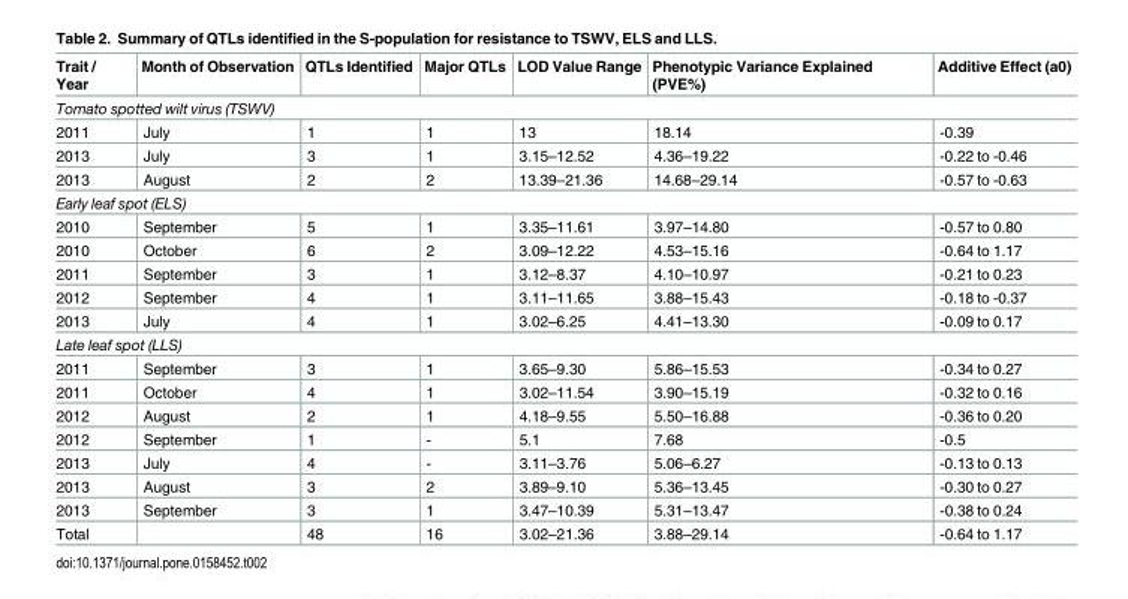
<table><thead><tr><td>Trait / Year</td><td>Month of Observation</td><td>QTLs Identified</td><td>Major QTLs</td><td>LOD Value Range</td><td>Phenotypic Variance Explained (PVE%)</td><td>Additive Effect (a0)</td></tr></thead><tbody><tr><td colspan="7">Tomato spotted wilt virus (TSWV)</td></tr><tr><td>2011</td><td>July</td><td>1</td><td>1</td><td>13</td><td>18.14</td><td>-0.39</td></tr><tr><td>2013</td><td>July</td><td>3</td><td>1</td><td>3.15–12.52</td><td>4.36–19.22</td><td>-0.22 to -0.46</td></tr><tr><td>2013</td><td>August</td><td>2</td><td>2</td><td>13.39–21.36</td><td>14.68–29.14</td><td>-0.57 to -0.63</td></tr><tr><td colspan="7">Early leaf spot (ELS)</td></tr><tr><td>2010</td><td>September</td><td>5</td><td>1</td><td>3.35–11.61</td><td>3.97–14.80</td><td>-0.57 to 0.80</td></tr><tr><td>2010</td><td>October</td><td>6</td><td>2</td><td>3.09–12.22</td><td>4.53–15.16</td><td>-0.64 to 1.17</td></tr><tr><td>2011</td><td>September</td><td>3</td><td>1</td><td>3.12–8.37</td><td>4.10–10.97</td><td>-0.21 to 0.23</td></tr><tr><td>2012</td><td>September</td><td>4</td><td>1</td><td>3.11–11.65</td><td>3.88–15.43</td><td>-0.18 to -0.37</td></tr><tr><td>2013</td><td>July</td><td>4</td><td>1</td><td>3.02–6.25</td><td>4.41–13.30</td><td>-0.09 to 0.17</td></tr><tr><td colspan="7">Late leaf spot (LLS)</td></tr><tr><td>2011</td><td>September</td><td>3</td><td>1</td><td>3.65–9.30</td><td>5.86–15.53</td><td>-0.34 to 0.27</td></tr><tr><td>2011</td><td>October</td><td>4</td><td>1</td><td>3.02–11.54</td><td>3.90–15.19</td><td>-0.32 to 0.16</td></tr><tr><td>2012</td><td>August</td><td>2</td><td>1</td><td>4.18–9.55</td><td>5.50–16.88</td><td>-0.36 to 0.20</td></tr><tr><td>2012</td><td>September</td><td>1</td><td>-</td><td>5.1</td><td>7.68</td><td>-0.5</td></tr><tr><td>2013</td><td>July</td><td>4</td><td>-</td><td>3.11–3.76</td><td>5.06–6.27</td><td>-0.13 to 0.13</td></tr><tr><td>2013</td><td>August</td><td>3</td><td>2</td><td>3.89–9.10</td><td>5.36–13.45</td><td>-0.30 to 0.27</td></tr><tr><td>2013</td><td>September</td><td>3</td><td>1</td><td>3.47–10.39</td><td>5.31–13.47</td><td>-0.38 to 0.24</td></tr><tr><td>Total</td><td></td><td>48</td><td>16</td><td>3.02–21.36</td><td>3.88–29.14</td><td>-0.64 to 1.17</td></tr></tbody></table>